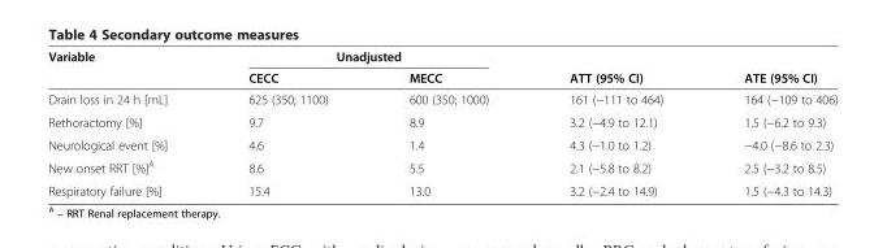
<table><thead><tr><td rowspan="2">Variable</td><td colspan="2">Unadjusted</td><td rowspan="2">ATT (95% CI)</td><td rowspan="2">ATE (95% CI)</td></tr><tr><td>CECC</td><td>MECC</td></tr></thead><tbody><tr><td>Drain loss in 24 h [mL]</td><td>625 (350; 1100)</td><td>600 (350; 1000)</td><td>161 (−111 to 464)</td><td>164 (−109 to 406)</td></tr><tr><td>Rethoractomy [%]</td><td>9.7</td><td>8.9</td><td>3.2 (−4.9 to 12.1)</td><td>1.5 (−6.2 to 9.3)</td></tr><tr><td>Neurological event [%]</td><td>4.6</td><td>1.4</td><td>4.3 (−1.0 to 1.2)</td><td>−4.0 (−8.6 to 2.3)</td></tr><tr><td>New onset RRT [%]<sup>A</sup></td><td>8.6</td><td>5.5</td><td>2.1 (−5.8 to 8.2)</td><td>2.5 (−3.2 to 8.5)</td></tr><tr><td>Respiratory failure [%]</td><td>15.4</td><td>13.0</td><td>3.2 (−2.4 to 14.9)</td><td>1.5 (−4.3 to 14.3)</td></tr></tbody></table>